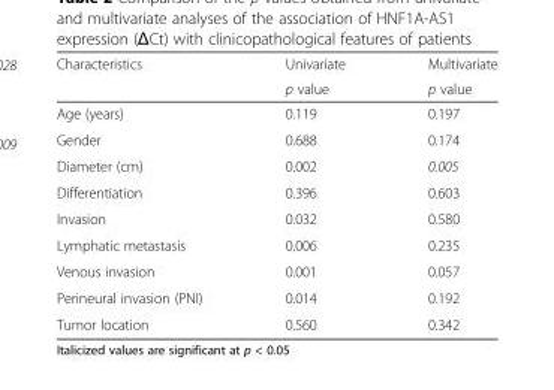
<table><thead><tr><td rowspan="2">Characteristics</td><td rowspan="2">Univariate p value</td><td rowspan="2">Multivariate p value</td></tr><tr></tr></thead><tbody><tr><td>Age (years)</td><td>0.119</td><td>0.197</td></tr><tr><td>Gender</td><td>0.688</td><td>0.174</td></tr><tr><td>Diameter (cm)</td><td>0.002</td><td>0.005</td></tr><tr><td>Differentiation</td><td>0.396</td><td>0.603</td></tr><tr><td>Invasion</td><td>0.032</td><td>0.580</td></tr><tr><td>Lymphatic metastasis</td><td>0.006</td><td>0.235</td></tr><tr><td>Venous invasion</td><td>0.001</td><td>0.057</td></tr><tr><td>Perineural invasion (PNI)</td><td>0.014</td><td>0.192</td></tr><tr><td>Tumor location</td><td>0.560</td><td>0.342</td></tr></tbody></table>